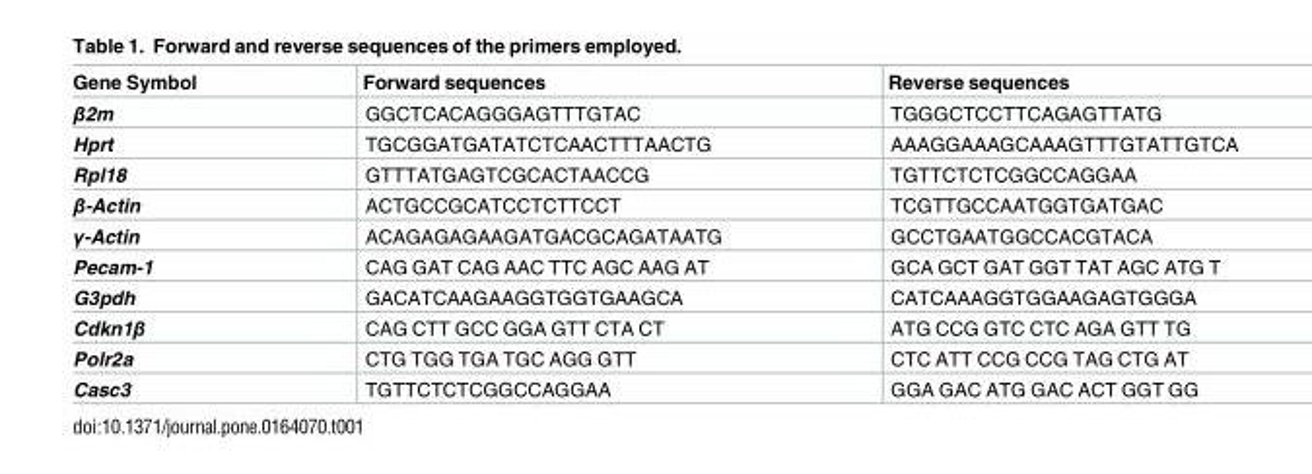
<table><thead><tr><td>Gene Symbol</td><td>Forward sequences</td><td>Reverse sequences</td></tr></thead><tbody><tr><td>β2m</td><td>GGCTCACAGGGAGTTTGTAC</td><td>TGGGCTCCTTCAGAGTTATG</td></tr><tr><td>Hprt</td><td>TGCGGATGATATCTCAACTTTAACTG</td><td>AAAGGAAAGCAAAGTTTGTATTGTCA</td></tr><tr><td>Rpl18</td><td>GTTTATGAGTCGCACTAACCG</td><td>TGTTCTCTCGGCCAGGAA</td></tr><tr><td>β-Actin</td><td>ACTGCCGCATCCTCTTCCT</td><td>TCGTTGCCAATGGTGATGAC</td></tr><tr><td>γ-Actin</td><td>ACAGAGAGAAGATGACGCAGATAATG</td><td>GCCTGAATGGCCACGTACA</td></tr><tr><td>Pecam-1</td><td>CAG GAT CAG AAC TTC AGC AAG AT</td><td>GCA GCT GAT GGT TAT AGC ATG T</td></tr><tr><td>G3pdh</td><td>GACATCAAGAAGGTGGTGAAGCA</td><td>CATCAAAGGTGGAAGAGTGGGA</td></tr><tr><td>Cdkn1β</td><td>CAG CTT GCC GGA GTT CTA CT</td><td>ATG CCG GTC CTC AGA GTT TG</td></tr><tr><td>Polr2a</td><td>CTG TGG TGA TGC AGG GTT</td><td>CTC ATT CCG CCG TAG CTG AT</td></tr><tr><td>Casc3</td><td>TGTTCTCTCGGCCAGGAA</td><td>GGA GAC ATG GAC ACT GGT GG</td></tr></tbody></table>